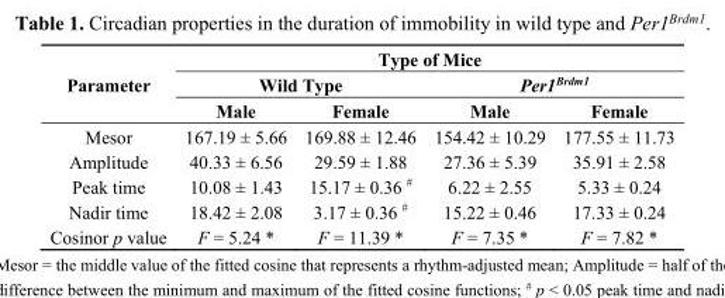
<table><thead><tr><td rowspan="3">Parameter</td><td colspan="4">Type of Mice</td></tr><tr><td colspan="2">Wild Type</td><td colspan="2">Per1<sup>Brdm1</sup></td></tr><tr><td>Male</td><td>Female</td><td>Male</td><td>Female</td></tr></thead><tbody><tr><td>Mesor</td><td>167.19 ± 5.66</td><td>169.88 ± 12.46</td><td>154.42 ± 10.29</td><td>177.55 ± 11.73</td></tr><tr><td>Amplitude</td><td>40.33 ± 6.56</td><td>29.59 ± 1.88</td><td>27.36 ± 5.39</td><td>35.91 ± 2.58</td></tr><tr><td>Peak time</td><td>10.08 ± 1.43</td><td>15.17 ± 0.36 <sup>#</sup></td><td>6.22 ± 2.55</td><td>5.33 ± 0.24</td></tr><tr><td>Nadir time</td><td>18.42 ± 2.08</td><td>3.17 ± 0.36 <sup>#</sup></td><td>15.22 ± 0.46</td><td>17.33 ± 0.24</td></tr><tr><td>Cosinor p value</td><td>F = 5.24 *</td><td>F = 11.39 *</td><td>F = 7.35 *</td><td>F = 7.82 *</td></tr></tbody></table>